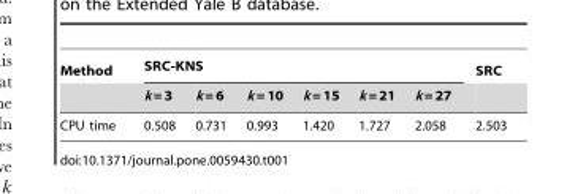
<table><thead><tr><td rowspan="2">Method</td><td colspan="6">SRC-KNS</td><td rowspan="2">SRC</td></tr><tr><td>k = 3</td><td>k = 6</td><td>k = 10</td><td>k = 15</td><td>k = 21</td><td>k = 27</td></tr></thead><tbody><tr><td>CPU time</td><td>0.508</td><td>0.731</td><td>0.993</td><td>1.420</td><td>1.727</td><td>2.058</td><td>2.503</td></tr></tbody></table>